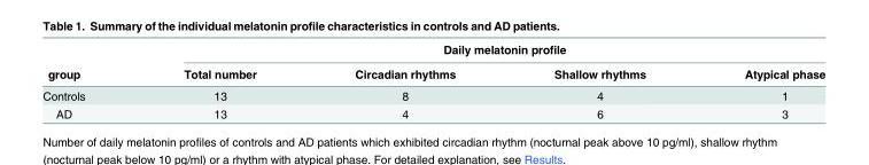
<table><thead><tr><td rowspan="2">group</td><td colspan="4">Daily melatonin profile</td></tr><tr><td>Total number</td><td>Circadian rhythms</td><td>Shallow rhythms</td><td>Atypical phase</td></tr></thead><tbody><tr><td>Controls</td><td>13</td><td>8</td><td>4</td><td>1</td></tr><tr><td>AD</td><td>13</td><td>4</td><td>6</td><td>3</td></tr></tbody></table>